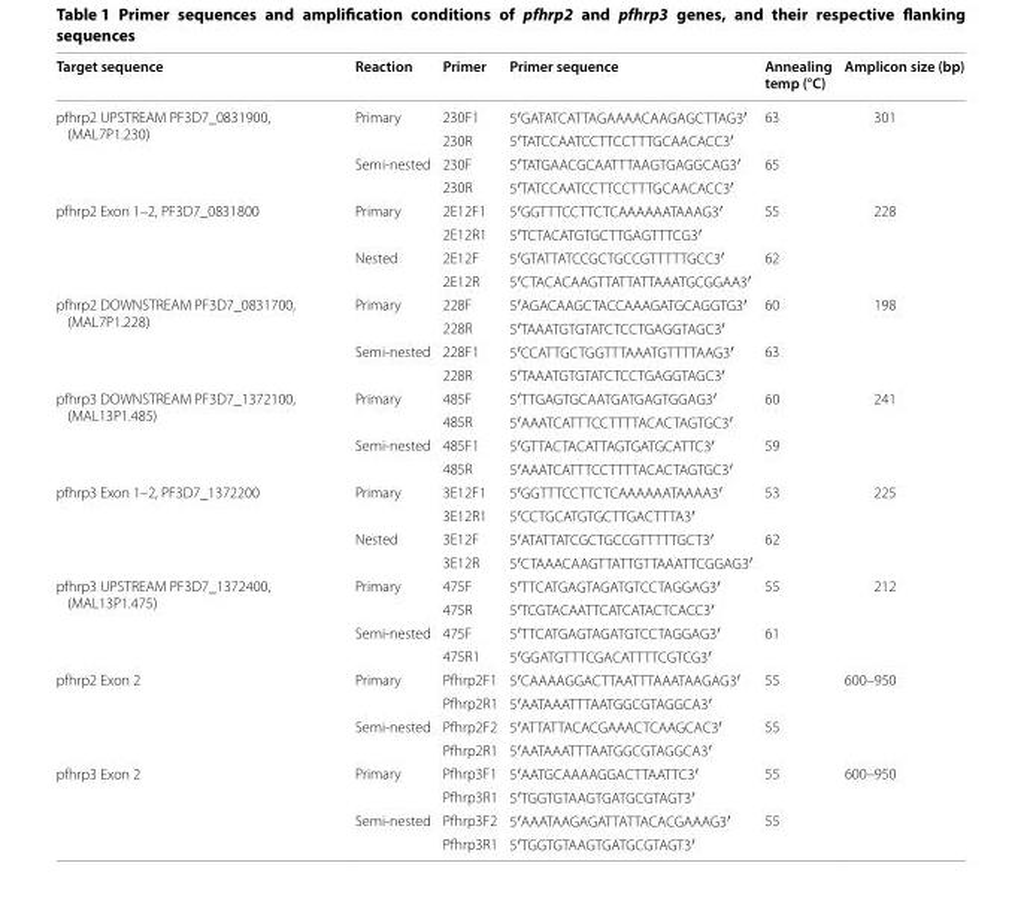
<table><thead><tr><td>Target sequence</td><td>Reaction</td><td>Primer</td><td>Primer sequence</td><td>Annealing temp (°C)</td><td>Amplicon size (bp)</td></tr></thead><tbody><tr><td rowspan="4">pfhrp2 UPSTREAM PF3D7_0831900, (MAL7P1.230)</td><td rowspan="2">Primary</td><td>230F1</td><td>5′GAT ATC ATT AGA AAA CAA GAG CTT AG3′</td><td rowspan="2">63</td><td rowspan="2">301</td></tr><tr><td>230R</td><td>5′TAT CCA ATC CTT CCT TTG CAA CAC C3′</td></tr><tr><td rowspan="2">Semi-nested</td><td>230F</td><td>5′TAT GAA CGC AAT TTA AGT GAG GCA G3′</td><td rowspan="2">65</td><td rowspan="2"></td></tr><tr><td>230R</td><td>5′TAT CCA ATC CTT CCT TTG CAA CAC C3′</td></tr><tr><td rowspan="4">pfhrp2 Exon 1–2, PF3D7_0831800</td><td rowspan="2">Primary</td><td>2E12F1</td><td>5′GGT TTC CTT CTC AAA AAA TAAAG3′</td><td rowspan="2">55</td><td rowspan="2">228</td></tr><tr><td>2E12R1</td><td>5′TCT ACA TGT GCT TGA GTT TCG3′</td></tr><tr><td rowspan="2">Nested</td><td>2E12F</td><td>5′GTA TTA TCC GCT GCC GTT TTT GCC 3′</td><td rowspan="2">62</td><td rowspan="2"></td></tr><tr><td>2E12R</td><td>5′CTA CAC AAG TTA TTA TTA AAT GCG GAA3′</td></tr><tr><td rowspan="4">pfhrp2 DOWNSTREAM PF3D7_0831700, (MAL7P1.228)</td><td rowspan="2">Primary</td><td>228F</td><td>5′AGA CAA GCT ACC AAA GAT GCA GGT G3′</td><td rowspan="2">60</td><td rowspan="2">198</td></tr><tr><td>228R</td><td>5′TAA ATG TGT ATC TCC TGA GGT AGC 3′</td></tr><tr><td rowspan="2">Semi-nested</td><td>228F1</td><td>5′CCA TTG CTG GTT TAA ATG TTT TAA G3′</td><td rowspan="2">63</td><td rowspan="2"></td></tr><tr><td>228R</td><td>5′TAA ATG TGT ATC TCC TGA GGT AGC 3′</td></tr><tr><td rowspan="4">pfhrp3 DOWNSTREAM PF3D7_1372100, (MAL13P1.485)</td><td rowspan="2">Primary</td><td>485F</td><td>5′TTG AGT GCA ATG ATG AGT GGAG3′</td><td rowspan="2">60</td><td rowspan="2">241</td></tr><tr><td>485R</td><td>5′AAA TCA TTT CCT TTT ACA CTA GTG C3′</td></tr><tr><td rowspan="2">Semi-nested</td><td>485F1</td><td>5′GTT ACT ACA TTA GTG ATG CATTC3′</td><td rowspan="2">59</td><td rowspan="2"></td></tr><tr><td>485R</td><td>5′AAA TCA TTT CCT TTT ACA CTA GTG C3′</td></tr><tr><td rowspan="4">pfhrp3 Exon 1–2, PF3D7_1372200</td><td rowspan="2">Primary</td><td>3E12F1</td><td>5′GGT TTC CTT CTC AAA AAA TAAAA3′</td><td rowspan="2">53</td><td rowspan="2">225</td></tr><tr><td>3E12R1</td><td>5′CCT GCA TGT GCT TGA CTT TA3′</td></tr><tr><td rowspan="2">Nested</td><td>3E12F</td><td>5′ATA TTA TCG CTG CCG TTT TTGCT3′</td><td rowspan="2">62</td><td rowspan="2"></td></tr><tr><td>3E12R</td><td>5′CTA AAC AAG TTA TTG TTA AAT TCG GAG3′</td></tr><tr><td rowspan="4">pfhrp3 UPSTREAM PF3D7_1372400, (MAL13P1.475)</td><td rowspan="2">Primary</td><td>475F</td><td>5′TTC ATG AGT AGA TGT CCT AGGAG3′</td><td rowspan="2">55</td><td rowspan="2">212</td></tr><tr><td>475R</td><td>5′TCG TAC AAT TCA TCA TAC TCACC3′</td></tr><tr><td rowspan="2">Semi-nested</td><td>475F</td><td>5′TTC ATG AGT AGA TGT CCT AGGAG3′</td><td rowspan="2">61</td><td rowspan="2"></td></tr><tr><td>475R1</td><td>5′GGA TGT TTC GAC ATT TTC GTCG3′</td></tr><tr><td rowspan="4">pfhrp2 Exon 2</td><td rowspan="2">Primary</td><td>Pfhrp2F1</td><td>5′CAA AAG GAC TTA ATT TAA ATA AGA G3′</td><td rowspan="2">55</td><td rowspan="2">600–950</td></tr><tr><td>Pfhrp2R1</td><td>5′AAT AAA TTT AAT GGC GTA GGCA3′</td></tr><tr><td rowspan="2">Semi-nested</td><td>Pfhrp2F2</td><td>5′ATT ATT ACA CGA AAC TCA AGCAC3′</td><td rowspan="2">55</td><td rowspan="2"></td></tr><tr><td>Pfhrp2R1</td><td>5′AAT AAA TTT AAT GGC GTA GGCA3′</td></tr><tr><td rowspan="4">pfhrp3 Exon 2</td><td rowspan="2">Primary</td><td>Pfhrp3F1</td><td>5′AAT GCA AAA GGA CTT AAT TC3′</td><td rowspan="2">55</td><td rowspan="2">600–950</td></tr><tr><td>Pfhrp3R1</td><td>5′TGG TGT AAG TGA TGC GTA GT3′</td></tr><tr><td rowspan="2">Semi-nested</td><td>Pfhrp3F2</td><td>5′AAA TAA GAG ATT ATT ACA CGA AAG 3′</td><td rowspan="2">55</td><td rowspan="2"></td></tr><tr><td>Pfhrp3R1</td><td>5′TGG TGT AAG TGA TGC GTA GT3′</td></tr></tbody></table>